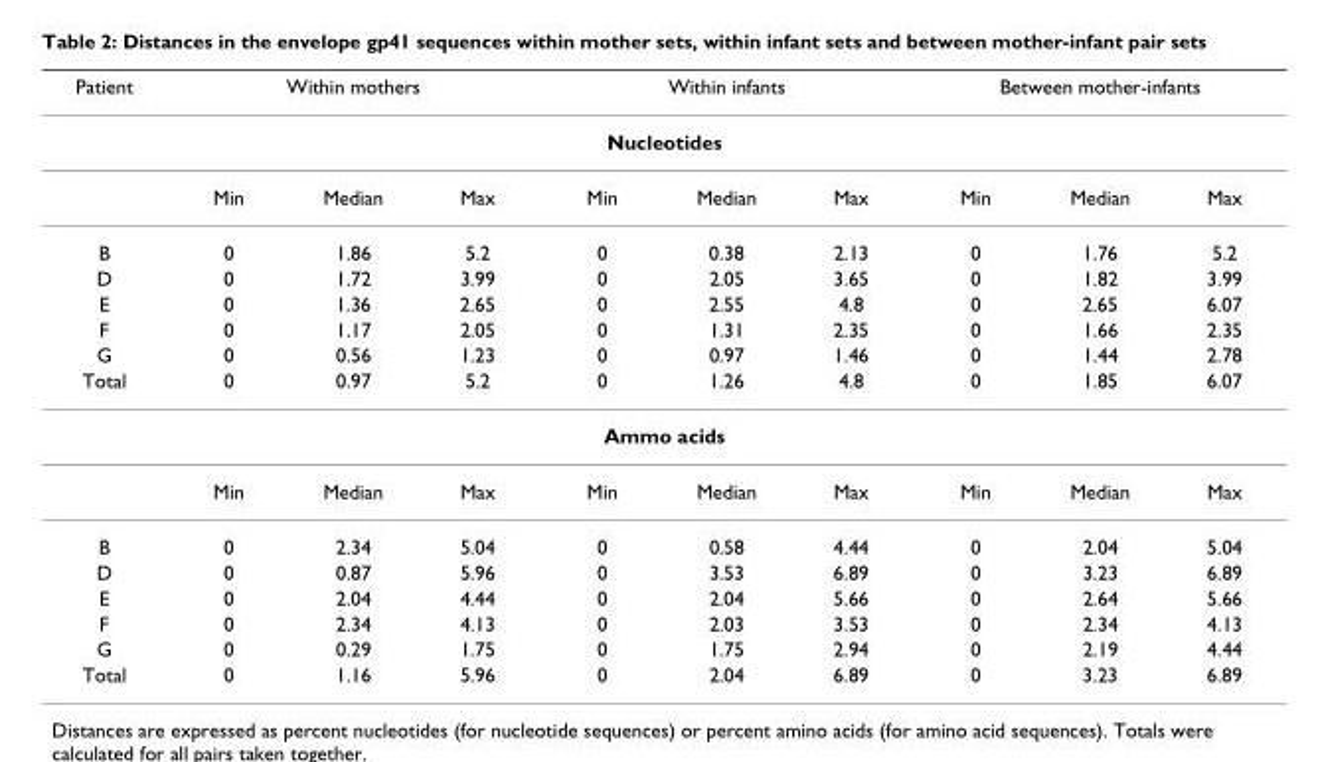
<table><thead><tr><td>Patient</td><td colspan="3">Within mothers</td><td colspan="3">Within infants</td><td colspan="3">Between mother-infants</td></tr><tr><td colspan="10">Nucleotides</td></tr><tr><td></td><td>Min</td><td>Median</td><td>Max</td><td>Min</td><td>Median</td><td>Max</td><td>Min</td><td>Median</td><td>Max</td></tr></thead><tbody><tr><td>B</td><td>0</td><td>1.86</td><td>5.2</td><td>0</td><td>0.38</td><td>2.13</td><td>0</td><td>1.76</td><td>5.2</td></tr><tr><td>D</td><td>0</td><td>1.72</td><td>3.99</td><td>0</td><td>2.05</td><td>3.65</td><td>0</td><td>1.82</td><td>3.99</td></tr><tr><td>E</td><td>0</td><td>1.36</td><td>2.65</td><td>0</td><td>2.55</td><td>4.8</td><td>0</td><td>2.65</td><td>6.07</td></tr><tr><td>F</td><td>0</td><td>1.17</td><td>2.05</td><td>0</td><td>1.31</td><td>2.35</td><td>0</td><td>1.66</td><td>2.35</td></tr><tr><td>G</td><td>0</td><td>0.56</td><td>1.23</td><td>0</td><td>0.97</td><td>1.46</td><td>0</td><td>1.44</td><td>2.78</td></tr><tr><td>Total</td><td>0</td><td>0.97</td><td>5.2</td><td>0</td><td>1.26</td><td>4.8</td><td>0</td><td>1.85</td><td>6.07</td></tr><tr><td colspan="10">Ammo acids</td></tr><tr><td></td><td>Min</td><td>Median</td><td>Max</td><td>Min</td><td>Median</td><td>Max</td><td>Min</td><td>Median</td><td>Max</td></tr><tr><td>B</td><td>0</td><td>2.34</td><td>5.04</td><td>0</td><td>0.58</td><td>4.44</td><td>0</td><td>2.04</td><td>5.04</td></tr><tr><td>D</td><td>0</td><td>0.87</td><td>5.96</td><td>0</td><td>3.53</td><td>6.89</td><td>0</td><td>3.23</td><td>6.89</td></tr><tr><td>E</td><td>0</td><td>2.04</td><td>4.44</td><td>0</td><td>2.04</td><td>5.66</td><td>0</td><td>2.64</td><td>5.66</td></tr><tr><td>F</td><td>0</td><td>2.34</td><td>4.13</td><td>0</td><td>2.03</td><td>3.53</td><td>0</td><td>2.34</td><td>4.13</td></tr><tr><td>G</td><td>0</td><td>0.29</td><td>1.75</td><td>0</td><td>1.75</td><td>2.94</td><td>0</td><td>2.19</td><td>4.44</td></tr><tr><td>Total</td><td>0</td><td>1.16</td><td>5.96</td><td>0</td><td>2.04</td><td>6.89</td><td>0</td><td>3.23</td><td>6.89</td></tr></tbody></table>